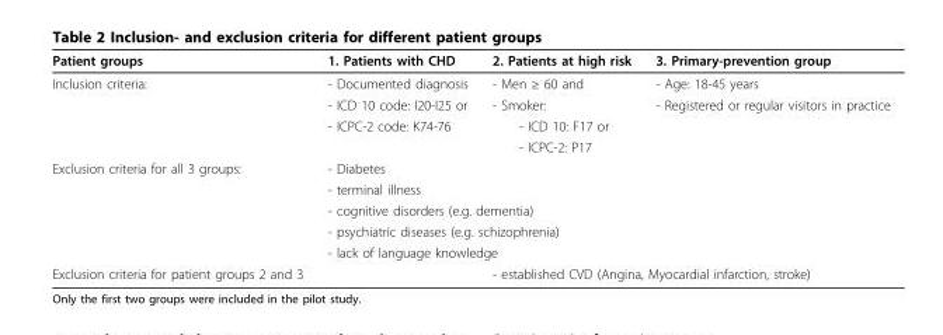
<table><thead><tr><td>Patient groups</td><td>1. Patients with CHD</td><td>2. Patients at high risk</td><td>3. Primary-prevention group</td></tr></thead><tbody><tr><td rowspan="4">Inclusion criteria:</td><td>- Documented diagnosis</td><td>- Men ≥ 60 and</td><td>- Age: 18-45 years</td></tr><tr><td>- ICD 10 code: I20-I25 or</td><td>- Smoker:</td><td>- Registered or regular visitors in practice</td></tr><tr><td>- ICPC-2 code: K74-76</td><td>- ICD 10: F17 or</td><td></td></tr><tr><td></td><td>- ICPC-2: P17</td><td></td></tr><tr><td rowspan="5">Exclusion criteria for all 3 groups:</td><td colspan="3">- Diabetes</td></tr><tr><td colspan="3">- terminal illness</td></tr><tr><td colspan="3">- cognitive disorders (e.g. dementia)</td></tr><tr><td colspan="3">- psychiatric diseases (e.g. schizophrenia)</td></tr><tr><td colspan="3">- lack of language knowledge</td></tr><tr><td>Exclusion criteria for patient groups 2 and 3</td><td></td><td colspan="2">- established CVD (Angina, Myocardial infarction, stroke)</td></tr></tbody></table>